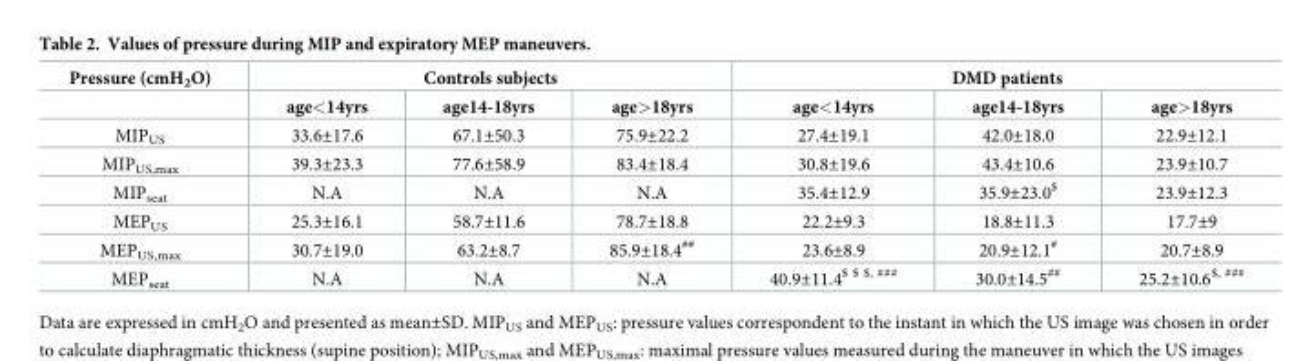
<table><thead><tr><td rowspan="2">Pressure (cmH<sub>2</sub>O)</td><td colspan="3">Controls subjects</td><td colspan="3">DMD patients</td></tr><tr><td>age&lt;14yrs</td><td>age14-18yrs</td><td>age&gt;18yrs</td><td>age&lt;14yrs</td><td>age14-18yrs</td><td>age&gt;18yrs</td></tr></thead><tbody><tr><td>MIP<sub>US</sub></td><td>33.6±17.6</td><td>67.1±50.3</td><td>75.9±22.2</td><td>27.4±19.1</td><td>42.0±18.0</td><td>22.9±12.1</td></tr><tr><td>MIP<sub>US,max</sub></td><td>39.3±23.3</td><td>77.6±58.9</td><td>83.4±18.4</td><td>30.8±19.6</td><td>43.4±10.6</td><td>23.9±10.7</td></tr><tr><td>MIP<sub>seat</sub></td><td>N.A</td><td>N.A</td><td>N.A</td><td>35.4±12.9</td><td>35.9±23.0<sup>$</sup></td><td>23.9±12.3</td></tr><tr><td>MEP<sub>US</sub></td><td>25.3±16.1</td><td>58.7±11.6</td><td>78.7±18.8</td><td>22.2±9.3</td><td>18.8±11.3</td><td>17.7±9</td></tr><tr><td>MEP<sub>US,max</sub></td><td>30.7±19.0</td><td>63.2±8.7</td><td>85.9±18.4<sup>##</sup></td><td>23.6±8.9</td><td>20.9±12.1<sup>#</sup></td><td>20.7±8.9</td></tr><tr><td>MEP<sub>seat</sub></td><td>N.A</td><td>N.A</td><td>N.A</td><td>40.9±11.4<sup>$ $ $, ###</sup></td><td>30.0±14.5<sup>##</sup></td><td>25.2±10.6<sup>$, ###</sup></td></tr></tbody></table>